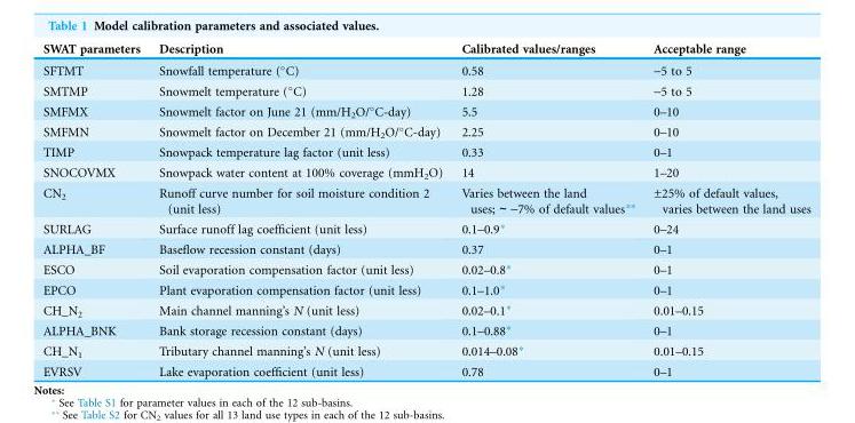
<table><thead><tr><td>SWAT parameters</td><td>Description</td><td>Calibrated values/ranges</td><td>Acceptable range</td></tr></thead><tbody><tr><td>SFTMT</td><td>Snowfall temperature (°C)</td><td>0.58</td><td>-5 to 5</td></tr><tr><td>SMTMP</td><td>Snowmelt temperature (°C)</td><td>1.28</td><td>-5 to 5</td></tr><tr><td>SMFMX</td><td>Snowmelt factor on June 21 (mm/H<sub>2</sub>O/°C-day)</td><td>5.5</td><td>0–10</td></tr><tr><td>SMFMN</td><td>Snowmelt factor on December 21 (mm/H<sub>2</sub>O/°C-day)</td><td>2.25</td><td>0–10</td></tr><tr><td>TIMP</td><td>Snowpack temperature lag factor (unit less)</td><td>0.33</td><td>0–1</td></tr><tr><td>SNOCOVMX</td><td>Snowpack water content at 100% coverage (mmH<sub>2</sub>O)</td><td>14</td><td>1–20</td></tr><tr><td>CN<sub>2</sub></td><td>Runoff curve number for soil moisture condition 2 (unit less)</td><td>Varies between the land uses; ∼ -7% of default values**</td><td>±25% of default values, varies between the land uses</td></tr><tr><td>SURLAG</td><td>Surface runoff lag coefficient (unit less)</td><td>0.1–0.9*</td><td>0–24</td></tr><tr><td>ALPHA_BF</td><td>Baseflow recession constant (days)</td><td>0.37</td><td>0–1</td></tr><tr><td>ESCO</td><td>Soil evaporation compensation factor (unit less)</td><td>0.02–0.8*</td><td>0–1</td></tr><tr><td>EPCO</td><td>Plant evaporation compensation factor (unit less)</td><td>0.1–1.0*</td><td>0–1</td></tr><tr><td>CH_N<sub>2</sub></td><td>Main channel manning’s N (unit less)</td><td>0.02–0.1*</td><td>0.01–0.15</td></tr><tr><td>ALPHA_BNK</td><td>Bank storage recession constant (days)</td><td>0.1–0.88*</td><td>0–1</td></tr><tr><td>CH_N<sub>1</sub></td><td>Tributary channel manning’s N (unit less)</td><td>0.014–0.08*</td><td>0.01–0.15</td></tr><tr><td>EVRSV</td><td>Lake evaporation coefficient (unit less)</td><td>0.78</td><td>0–1</td></tr></tbody></table>